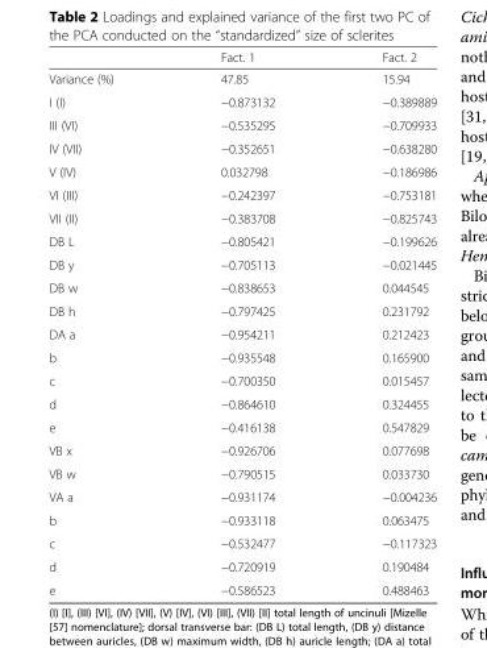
<table><thead><tr><td></td><td>Fact. 1</td><td>Fact. 2</td></tr></thead><tbody><tr><td>Variance (%)</td><td>47.85</td><td>15.94</td></tr><tr><td>I (I)</td><td>−0.873132</td><td>−0.389889</td></tr><tr><td>III (VI)</td><td>−0.535295</td><td>−0.709933</td></tr><tr><td>IV (VII)</td><td>−0.352651</td><td>−0.638280</td></tr><tr><td>V (IV)</td><td>0.032798</td><td>−0.186986</td></tr><tr><td>VI (III)</td><td>−0.242397</td><td>−0.753181</td></tr><tr><td>VII (II)</td><td>−0.383708</td><td>−0.825743</td></tr><tr><td>DB L</td><td>−0.805421</td><td>−0.199626</td></tr><tr><td>DB y</td><td>−0.705113</td><td>−0.021445</td></tr><tr><td>DB w</td><td>−0.838653</td><td>0.044545</td></tr><tr><td>DB h</td><td>−0.797425</td><td>0.231792</td></tr><tr><td>DA a</td><td>−0.954211</td><td>0.212423</td></tr><tr><td>b</td><td>−0.935548</td><td>0.165900</td></tr><tr><td>c</td><td>−0.700350</td><td>0.015457</td></tr><tr><td>d</td><td>−0.864610</td><td>0.324455</td></tr><tr><td>e</td><td>−0.416138</td><td>0.547829</td></tr><tr><td>VB x</td><td>−0.926706</td><td>0.077698</td></tr><tr><td>VB w</td><td>−0.790515</td><td>0.033730</td></tr><tr><td>VA a</td><td>−0.931174</td><td>−0.004236</td></tr><tr><td>b</td><td>−0.933118</td><td>0.063475</td></tr><tr><td>c</td><td>−0.532477</td><td>−0.117323</td></tr><tr><td>d</td><td>−0.720919</td><td>0.190484</td></tr><tr><td>e</td><td>−0.586523</td><td>0.488463</td></tr></tbody></table>